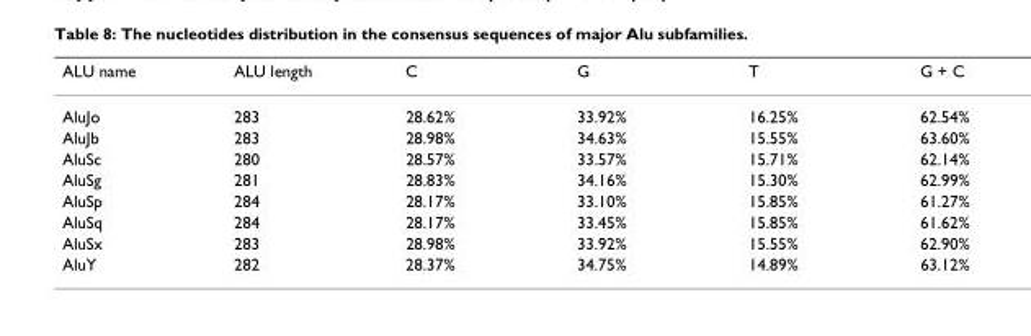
<table><thead><tr><td>ALU name</td><td>ALU length</td><td>C</td><td>G</td><td>T</td><td>G + C</td></tr></thead><tbody><tr><td>AluJo</td><td>283</td><td>28.62%</td><td>33.92%</td><td>16.25%</td><td>62.54%</td></tr><tr><td>AluJb</td><td>283</td><td>28.98%</td><td>34.63%</td><td>15.55%</td><td>63.60%</td></tr><tr><td>AluSc</td><td>280</td><td>28.57%</td><td>33.57%</td><td>15.71%</td><td>62.14%</td></tr><tr><td>AluSg</td><td>281</td><td>28.83%</td><td>34.16%</td><td>15.30%</td><td>62.99%</td></tr><tr><td>AluSp</td><td>284</td><td>28.17%</td><td>33.10%</td><td>15.85%</td><td>61.27%</td></tr><tr><td>AluSq</td><td>284</td><td>28.17%</td><td>33.45%</td><td>15.85%</td><td>61.62%</td></tr><tr><td>AluSx</td><td>283</td><td>28.98%</td><td>33.92%</td><td>15.55%</td><td>62.90%</td></tr><tr><td>AluY</td><td>282</td><td>28.37%</td><td>34.75%</td><td>14.89%</td><td>63.12%</td></tr></tbody></table>